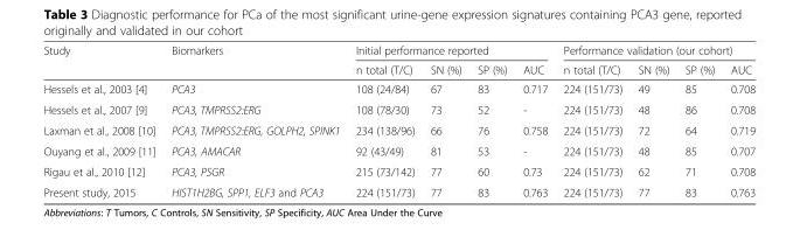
<table><thead><tr><td rowspan="2">Study</td><td rowspan="2">Biomarkers</td><td colspan="4">Initial performance reported</td><td colspan="4">Performance validation (our cohort)</td></tr><tr><td>n total (T/C)</td><td>SN (%)</td><td>SP (%)</td><td>AUC</td><td>n total (T/C)</td><td>SN (%)</td><td>SP (%)</td><td>AUC</td></tr></thead><tbody><tr><td>Hessels et al., 2003 [4]</td><td>PCA3</td><td>108 (24/84)</td><td>67</td><td>83</td><td>0.717</td><td>224 (151/73)</td><td>49</td><td>85</td><td>0.708</td></tr><tr><td>Hessels et al., 2007 [9]</td><td>PCA3, TMPRSS2:ERG</td><td>108 (78/30)</td><td>73</td><td>52</td><td>-</td><td>224 (151/73)</td><td>48</td><td>86</td><td>0.708</td></tr><tr><td>Laxman et al., 2008 [10]</td><td>PCA3, TMPRSS2:ERG, GOLPH2, SPINK1</td><td>234 (138/96)</td><td>66</td><td>76</td><td>0.758</td><td>224 (151/73)</td><td>72</td><td>64</td><td>0.719</td></tr><tr><td>Ouyang et al., 2009 [11]</td><td>PCA3, AMACAR</td><td>92 (43/49)</td><td>81</td><td>53</td><td>-</td><td>224 (151/73)</td><td>48</td><td>85</td><td>0.707</td></tr><tr><td>Rigau et al., 2010 [12]</td><td>PCA3, PSGR</td><td>215 (73/142)</td><td>77</td><td>60</td><td>0.73</td><td>224 (151/73)</td><td>62</td><td>71</td><td>0.708</td></tr><tr><td>Present study, 2015</td><td>HIST1H2BG, SPP1, ELF3 and PCA3</td><td>224 (151/73)</td><td>77</td><td>83</td><td>0.763</td><td>224 (151/73)</td><td>77</td><td>83</td><td>0.763</td></tr></tbody></table>